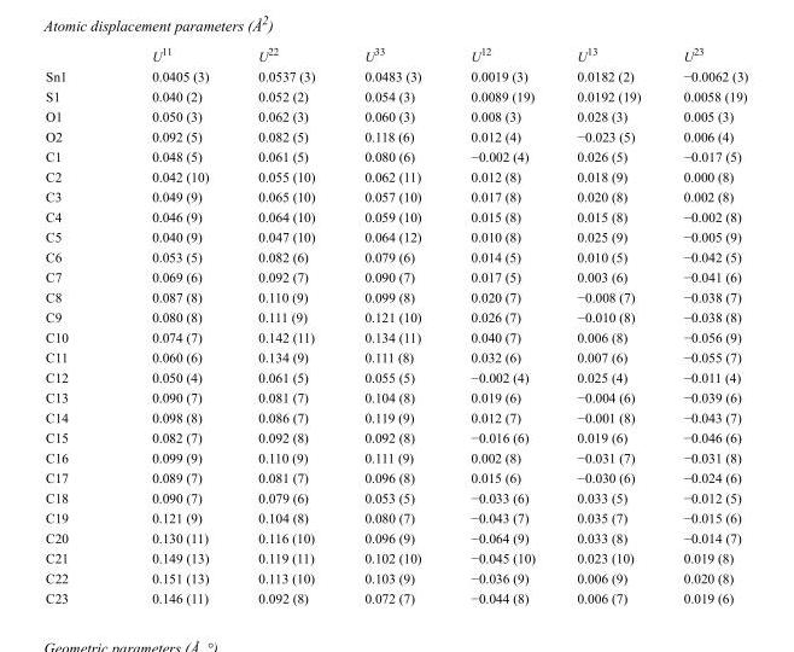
<table><thead><tr><td></td><td>U<sup>11</sup></td><td>U<sup>22</sup></td><td>U<sup>33</sup></td><td>U<sup>12</sup></td><td>U<sup>13</sup></td><td>U<sup>23</sup></td></tr></thead><tbody><tr><td>Sn1</td><td>0.0405 (3)</td><td>0.0537 (3)</td><td>0.0483 (3)</td><td>0.0019 (3)</td><td>0.0182 (2)</td><td>−0.0062 (3)</td></tr><tr><td>S1</td><td>0.040 (2)</td><td>0.052 (2)</td><td>0.054 (3)</td><td>0.0089 (19)</td><td>0.0192 (19)</td><td>0.0058 (19)</td></tr><tr><td>O1</td><td>0.050 (3)</td><td>0.062 (3)</td><td>0.060 (3)</td><td>0.008 (3)</td><td>0.028 (3)</td><td>0.005 (3)</td></tr><tr><td>O2</td><td>0.092 (5)</td><td>0.082 (5)</td><td>0.118 (6)</td><td>0.012 (4)</td><td>−0.023 (5)</td><td>0.006 (4)</td></tr><tr><td>C1</td><td>0.048 (5)</td><td>0.061 (5)</td><td>0.080 (6)</td><td>−0.002 (4)</td><td>0.026 (5)</td><td>−0.017 (5)</td></tr><tr><td>C2</td><td>0.042 (10)</td><td>0.055 (10)</td><td>0.062 (11)</td><td>0.012 (8)</td><td>0.018 (9)</td><td>0.000 (8)</td></tr><tr><td>C3</td><td>0.049 (9)</td><td>0.065 (10)</td><td>0.057 (10)</td><td>0.017 (8)</td><td>0.020 (8)</td><td>0.002 (8)</td></tr><tr><td>C4</td><td>0.046 (9)</td><td>0.064 (10)</td><td>0.059 (10)</td><td>0.015 (8)</td><td>0.015 (8)</td><td>−0.002 (8)</td></tr><tr><td>C5</td><td>0.040 (9)</td><td>0.047 (10)</td><td>0.064 (12)</td><td>0.010 (8)</td><td>0.025 (9)</td><td>−0.005 (9)</td></tr><tr><td>C6</td><td>0.053 (5)</td><td>0.082 (6)</td><td>0.079 (6)</td><td>0.014 (5)</td><td>0.010 (5)</td><td>−0.042 (5)</td></tr><tr><td>C7</td><td>0.069 (6)</td><td>0.092 (7)</td><td>0.090 (7)</td><td>0.017 (5)</td><td>0.003 (6)</td><td>−0.041 (6)</td></tr><tr><td>C8</td><td>0.087 (8)</td><td>0.110 (9)</td><td>0.099 (8)</td><td>0.020 (7)</td><td>−0.008 (7)</td><td>−0.038 (7)</td></tr><tr><td>C9</td><td>0.080 (8)</td><td>0.111 (9)</td><td>0.121 (10)</td><td>0.026 (7)</td><td>−0.010 (8)</td><td>−0.038 (8)</td></tr><tr><td>C10</td><td>0.074 (7)</td><td>0.142 (11)</td><td>0.134 (11)</td><td>0.040 (7)</td><td>0.006 (8)</td><td>−0.056 (9)</td></tr><tr><td>C11</td><td>0.060 (6)</td><td>0.134 (9)</td><td>0.111 (8)</td><td>0.032 (6)</td><td>0.007 (6)</td><td>−0.055 (7)</td></tr><tr><td>C12</td><td>0.050 (4)</td><td>0.061 (5)</td><td>0.055 (5)</td><td>−0.002 (4)</td><td>0.025 (4)</td><td>−0.011 (4)</td></tr><tr><td>C13</td><td>0.090 (7)</td><td>0.081 (7)</td><td>0.104 (8)</td><td>0.019 (6)</td><td>−0.004 (6)</td><td>−0.039 (6)</td></tr><tr><td>C14</td><td>0.098 (8)</td><td>0.086 (7)</td><td>0.119 (9)</td><td>0.012 (7)</td><td>−0.001 (8)</td><td>−0.043 (7)</td></tr><tr><td>C15</td><td>0.082 (7)</td><td>0.092 (8)</td><td>0.092 (8)</td><td>−0.016 (6)</td><td>0.019 (6)</td><td>−0.046 (6)</td></tr><tr><td>C16</td><td>0.099 (9)</td><td>0.110 (9)</td><td>0.111 (9)</td><td>0.002 (8)</td><td>−0.031 (7)</td><td>−0.031 (8)</td></tr><tr><td>C17</td><td>0.089 (7)</td><td>0.081 (7)</td><td>0.096 (8)</td><td>0.015 (6)</td><td>−0.030 (6)</td><td>−0.024 (6)</td></tr><tr><td>C18</td><td>0.090 (7)</td><td>0.079 (6)</td><td>0.053 (5)</td><td>−0.033 (6)</td><td>0.033 (5)</td><td>−0.012 (5)</td></tr><tr><td>C19</td><td>0.121 (9)</td><td>0.104 (8)</td><td>0.080 (7)</td><td>−0.043 (7)</td><td>0.035 (7)</td><td>−0.015 (6)</td></tr><tr><td>C20</td><td>0.130 (11)</td><td>0.116 (10)</td><td>0.096 (9)</td><td>−0.064 (9)</td><td>0.033 (8)</td><td>−0.014 (7)</td></tr><tr><td>C21</td><td>0.149 (13)</td><td>0.119 (11)</td><td>0.102 (10)</td><td>−0.045 (10)</td><td>0.023 (10)</td><td>0.019 (8)</td></tr><tr><td>C22</td><td>0.151 (13)</td><td>0.113 (10)</td><td>0.103 (9)</td><td>−0.036 (9)</td><td>0.006 (9)</td><td>0.020 (8)</td></tr><tr><td>C23</td><td>0.146 (11)</td><td>0.092 (8)</td><td>0.072 (7)</td><td>−0.044 (8)</td><td>0.006 (7)</td><td>0.019 (6)</td></tr></tbody></table>